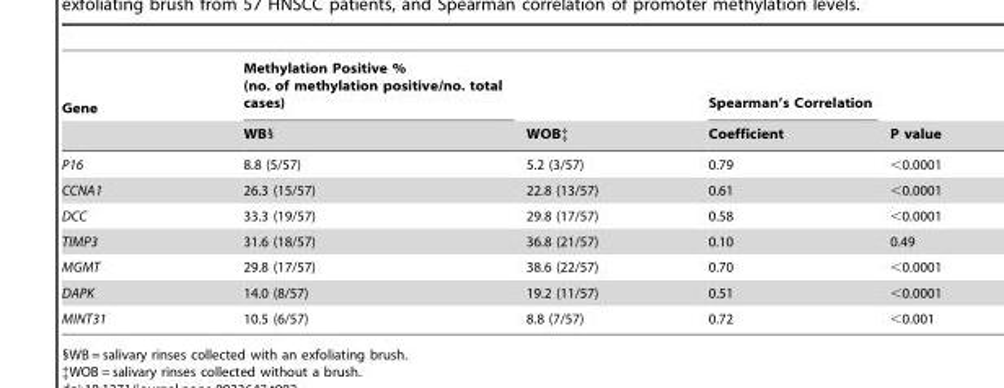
<table><thead><tr><td rowspan="2">Gene</td><td rowspan="2">Methylation Positive % (no. of methylation positive/no. total cases) WB§</td><td rowspan="2">WOB‡</td><td rowspan="2">Spearman’s Correlation Coefficient</td><td rowspan="2">P value</td></tr><tr></tr></thead><tbody><tr><td>P16</td><td>8.8 (5/57)</td><td>5.2 (3/57)</td><td>0.79</td><td>&lt;0.0001</td></tr><tr><td>CCNA1</td><td>26.3 (15/57)</td><td>22.8 (13/57)</td><td>0.61</td><td>&lt;0.0001</td></tr><tr><td>DCC</td><td>33.3 (19/57)</td><td>29.8 (17/57)</td><td>0.58</td><td>&lt;0.0001</td></tr><tr><td>TIMP3</td><td>31.6 (18/57)</td><td>36.8 (21/57)</td><td>0.10</td><td>0.49</td></tr><tr><td>MGMT</td><td>29.8 (17/57)</td><td>38.6 (22/57)</td><td>0.70</td><td>&lt;0.0001</td></tr><tr><td>DAPK</td><td>14.0 (8/57)</td><td>19.2 (11/57)</td><td>0.51</td><td>&lt;0.0001</td></tr><tr><td>MINT31</td><td>10.5 (6/57)</td><td>8.8 (7/57)</td><td>0.72</td><td>&lt;0.001</td></tr></tbody></table>